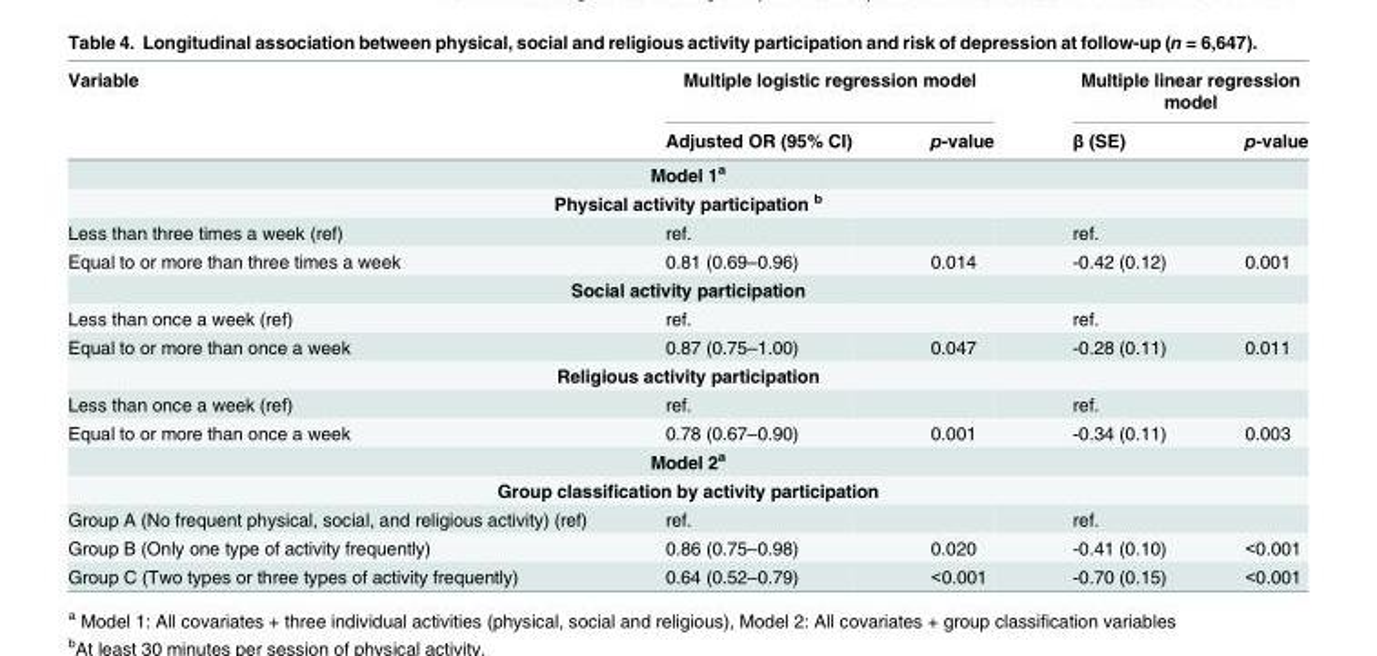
<table><thead><tr><td rowspan="2">Variable</td><td colspan="2">Multiple logistic regression model</td><td colspan="2">Multiple linear regression model</td></tr><tr><td>Adjusted OR (95% CI)</td><td>p-value</td><td>β (SE)</td><td>p-value</td></tr></thead><tbody><tr><td colspan="5">Model 1<sup>a</sup></td></tr><tr><td colspan="5">Physical activity participation <sup>b</sup></td></tr><tr><td>Less than three times a week (ref)</td><td>ref.</td><td></td><td>ref.</td><td></td></tr><tr><td>Equal to or more than three times a week</td><td>0.81 (0.69–0.96)</td><td>0.014</td><td>-0.42 (0.12)</td><td>0.001</td></tr><tr><td colspan="5">Social activity participation</td></tr><tr><td>Less than once a week (ref)</td><td>ref.</td><td></td><td>ref.</td><td></td></tr><tr><td>Equal to or more than once a week</td><td>0.87 (0.75–1.00)</td><td>0.047</td><td>-0.28 (0.11)</td><td>0.011</td></tr><tr><td colspan="5">Religious activity participation</td></tr><tr><td>Less than once a week (ref)</td><td>ref.</td><td></td><td>ref.</td><td></td></tr><tr><td>Equal to or more than once a week</td><td>0.78 (0.67–0.90)</td><td>0.001</td><td>-0.34 (0.11)</td><td>0.003</td></tr><tr><td colspan="5">Model 2<sup>a</sup></td></tr><tr><td colspan="5">Group classification by activity participation</td></tr><tr><td>Group A (No frequent physical, social, and religious activity) (ref)</td><td>ref.</td><td></td><td>ref.</td><td></td></tr><tr><td>Group B (Only one type of activity frequently)</td><td>0.86 (0.75–0.98)</td><td>0.020</td><td>-0.41 (0.10)</td><td>&lt;0.001</td></tr><tr><td>Group C (Two types or three types of activity frequently)</td><td>0.64 (0.52–0.79)</td><td>&lt;0.001</td><td>-0.70 (0.15)</td><td>&lt;0.001</td></tr></tbody></table>